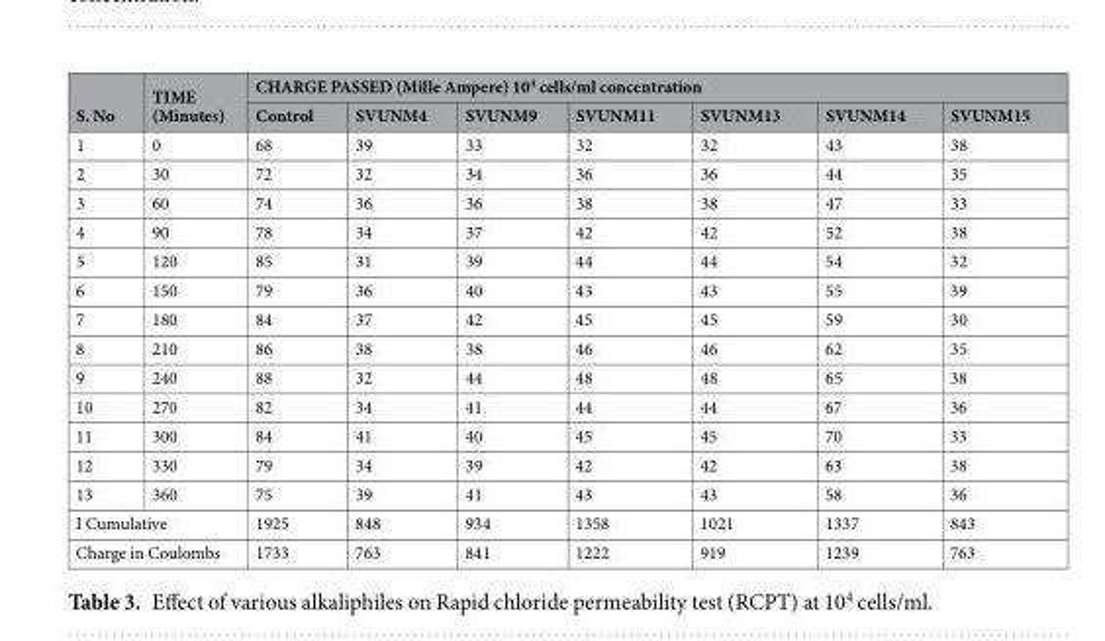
<table><thead><tr><td rowspan="2">S. No</td><td rowspan="2">TIME (Minutes)</td><td colspan="7">CHARGE PASSED (Mille Ampere) 10<sup>4</sup> cells/ml concentration</td></tr><tr><td>Control</td><td>SVUNM4</td><td>SVUNM9</td><td>SVUNM11</td><td>SVUNM13</td><td>SVUNM14</td><td>SVUNM15</td></tr></thead><tbody><tr><td>1</td><td>0</td><td>68</td><td>39</td><td>33</td><td>32</td><td>32</td><td>43</td><td>38</td></tr><tr><td>2</td><td>30</td><td>72</td><td>32</td><td>34</td><td>36</td><td>36</td><td>44</td><td>35</td></tr><tr><td>3</td><td>60</td><td>74</td><td>36</td><td>36</td><td>38</td><td>38</td><td>47</td><td>33</td></tr><tr><td>4</td><td>90</td><td>78</td><td>34</td><td>37</td><td>42</td><td>42</td><td>52</td><td>38</td></tr><tr><td>5</td><td>120</td><td>85</td><td>31</td><td>39</td><td>44</td><td>44</td><td>54</td><td>32</td></tr><tr><td>6</td><td>150</td><td>79</td><td>36</td><td>40</td><td>43</td><td>43</td><td>55</td><td>39</td></tr><tr><td>7</td><td>180</td><td>84</td><td>37</td><td>42</td><td>45</td><td>45</td><td>59</td><td>30</td></tr><tr><td>8</td><td>210</td><td>86</td><td>38</td><td>38</td><td>46</td><td>46</td><td>62</td><td>35</td></tr><tr><td>9</td><td>240</td><td>88</td><td>32</td><td>44</td><td>48</td><td>48</td><td>65</td><td>38</td></tr><tr><td>10</td><td>270</td><td>82</td><td>34</td><td>41</td><td>44</td><td>44</td><td>67</td><td>36</td></tr><tr><td>11</td><td>300</td><td>84</td><td>41</td><td>40</td><td>45</td><td>45</td><td>70</td><td>33</td></tr><tr><td>12</td><td>330</td><td>79</td><td>34</td><td>39</td><td>42</td><td>42</td><td>63</td><td>38</td></tr><tr><td>13</td><td>360</td><td>75</td><td>39</td><td>41</td><td>43</td><td>43</td><td>58</td><td>36</td></tr><tr><td colspan="2">I Cumulative</td><td>1925</td><td>848</td><td>934</td><td>1358</td><td>1021</td><td>1337</td><td>843</td></tr><tr><td colspan="2">Charge in Coulombs</td><td>1733</td><td>763</td><td>841</td><td>1222</td><td>919</td><td>1239</td><td>763</td></tr></tbody></table>